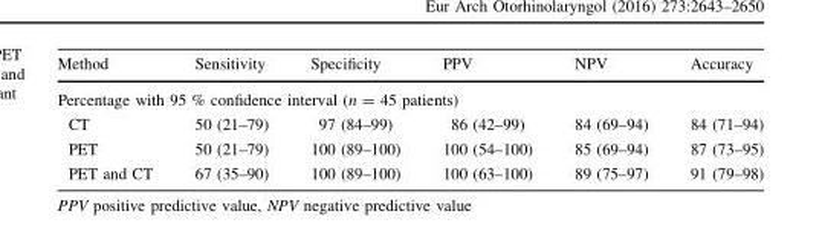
<table><thead><tr><td>Method</td><td>Sensitivity</td><td>Specificity</td><td>PPV</td><td>NPV</td><td>Accuracy</td></tr></thead><tbody><tr><td colspan="6">Percentage with 95 % confidence interval (n = 45 patients)</td></tr><tr><td>CT</td><td>50 (21–79)</td><td>97 (84–99)</td><td>86 (42–99)</td><td>84 (69–94)</td><td>84 (71–94)</td></tr><tr><td>PET</td><td>50 (21–79)</td><td>100 (89–100)</td><td>100 (54–100)</td><td>85 (69–94)</td><td>87 (73–95)</td></tr><tr><td>PET and CT</td><td>67 (35–90)</td><td>100 (89–100)</td><td>100 (63–100)</td><td>89 (75–97)</td><td>91 (79–98)</td></tr></tbody></table>